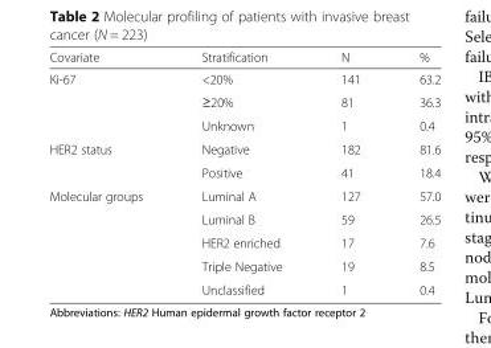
<table><thead><tr><td>Covariate</td><td>Stratification</td><td>N</td><td>%</td></tr></thead><tbody><tr><td rowspan="3">Ki-67</td><td>&lt;20%</td><td>141</td><td>63.2</td></tr><tr><td>≥20%</td><td>81</td><td>36.3</td></tr><tr><td>Unknown</td><td>1</td><td>0.4</td></tr><tr><td rowspan="2">HER2 status</td><td>Negative</td><td>182</td><td>81.6</td></tr><tr><td>Positive</td><td>41</td><td>18.4</td></tr><tr><td rowspan="5">Molecular groups</td><td>Luminal A</td><td>127</td><td>57.0</td></tr><tr><td>Luminal B</td><td>59</td><td>26.5</td></tr><tr><td>HER2 enriched</td><td>17</td><td>7.6</td></tr><tr><td>Triple Negative</td><td>19</td><td>8.5</td></tr><tr><td>Unclassified</td><td>1</td><td>0.4</td></tr></tbody></table>